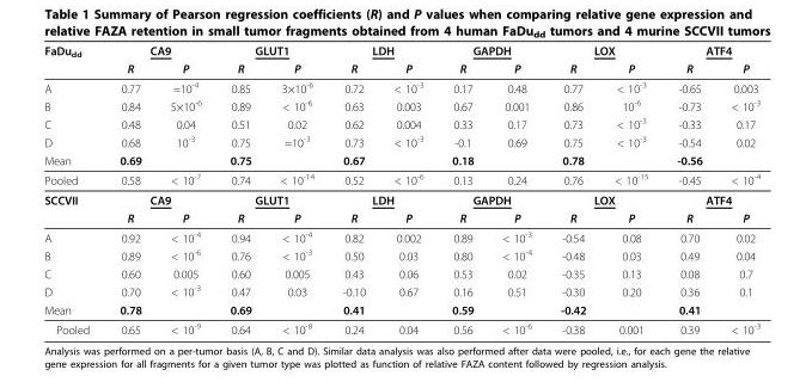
<table><thead><tr><td rowspan="2">FaDu<sub>dd</sub></td><td colspan="2">CA9</td><td colspan="2">GLUT1</td><td colspan="2">LDH</td><td colspan="2">GAPDH</td><td colspan="2">LOX</td><td colspan="2">ATF4</td></tr><tr><td>R</td><td>P</td><td>R</td><td>P</td><td>R</td><td>P</td><td>R</td><td>P</td><td>R</td><td>P</td><td>R</td><td>P</td></tr></thead><tbody><tr><td>A</td><td>0.77</td><td>≈10<sup>-4</sup></td><td>0.85</td><td>3×10<sup>-6</sup></td><td>0.72</td><td>&lt; 10<sup>-3</sup></td><td>0.17</td><td>0.48</td><td>0.77</td><td>&lt; 10<sup>-3</sup></td><td>-0.65</td><td>0.003</td></tr><tr><td>B</td><td>0.84</td><td>5×10<sup>-6</sup></td><td>0.89</td><td>&lt; 10<sup>-6</sup></td><td>0.63</td><td>0.003</td><td>0.67</td><td>0.001</td><td>0.86</td><td>10<sup>-6</sup></td><td>-0.73</td><td>&lt; 10<sup>-3</sup></td></tr><tr><td>C</td><td>0.48</td><td>0.04</td><td>0.51</td><td>0.02</td><td>0.62</td><td>0.004</td><td>0.33</td><td>0.17</td><td>0.73</td><td>&lt; 10<sup>-3</sup></td><td>-0.33</td><td>0.17</td></tr><tr><td>D</td><td>0.68</td><td>10<sup>-3</sup></td><td>0.75</td><td>≈10<sup>-3</sup></td><td>0.73</td><td>&lt; 10<sup>-3</sup></td><td>-0.1</td><td>0.69</td><td>0.75</td><td>&lt; 10<sup>-3</sup></td><td>-0.54</td><td>0.02</td></tr><tr><td>Mean</td><td>0.69</td><td></td><td>0.75</td><td></td><td>0.67</td><td></td><td>0.18</td><td></td><td>0.78</td><td></td><td>-0.56</td><td></td></tr><tr><td>Pooled</td><td>0.58</td><td>&lt; 10<sup>-7</sup></td><td>0.74</td><td>&lt; 10<sup>-14</sup></td><td>0.52</td><td>&lt; 10<sup>-6</sup></td><td>0.13</td><td>0.24</td><td>0.76</td><td>&lt; 10<sup>-15</sup></td><td>-0.45</td><td>&lt; 10<sup>-4</sup></td></tr><tr><td rowspan="2">SCCVII</td><td colspan="2">CA9</td><td colspan="2">GLUT1</td><td colspan="2">LDH</td><td colspan="2">GAPDH</td><td colspan="2">LOX</td><td colspan="2">ATF4</td></tr><tr><td>R</td><td>P</td><td>R</td><td>P</td><td>R</td><td>P</td><td>R</td><td>P</td><td>R</td><td>P</td><td>R</td><td>P</td></tr><tr><td>A</td><td>0.92</td><td>&lt; 10<sup>-4</sup></td><td>0.94</td><td>&lt; 10<sup>-4</sup></td><td>0.82</td><td>0.002</td><td>0.89</td><td>&lt; 10<sup>-3</sup></td><td>-0.54</td><td>0.08</td><td>0.70</td><td>0.02</td></tr><tr><td>B</td><td>0.89</td><td>&lt; 10<sup>-6</sup></td><td>0.76</td><td>&lt; 10<sup>-3</sup></td><td>0.50</td><td>0.03</td><td>0.80</td><td>&lt; 10<sup>-4</sup></td><td>-0.48</td><td>0.03</td><td>0.49</td><td>0.04</td></tr><tr><td>C</td><td>0.60</td><td>0.005</td><td>0.60</td><td>0.005</td><td>0.43</td><td>0.06</td><td>0.53</td><td>0.02</td><td>-0.35</td><td>0.13</td><td>0.08</td><td>0.7</td></tr><tr><td>D</td><td>0.70</td><td>&lt; 10<sup>-3</sup></td><td>0.47</td><td>0.03</td><td>-0.10</td><td>0.67</td><td>0.16</td><td>0.51</td><td>-0.30</td><td>0.20</td><td>0.36</td><td>0.1</td></tr><tr><td>Mean</td><td>0.78</td><td></td><td>0.69</td><td></td><td>0.41</td><td></td><td>0.59</td><td></td><td>-0.42</td><td></td><td>0.41</td><td></td></tr><tr><td>Pooled</td><td>0.65</td><td>&lt; 10<sup>-9</sup></td><td>0.64</td><td>&lt; 10<sup>-8</sup></td><td>0.24</td><td>0.04</td><td>0.56</td><td>&lt; 10<sup>-6</sup></td><td>-0.38</td><td>0.001</td><td>0.39</td><td>&lt; 10<sup>-3</sup></td></tr></tbody></table>